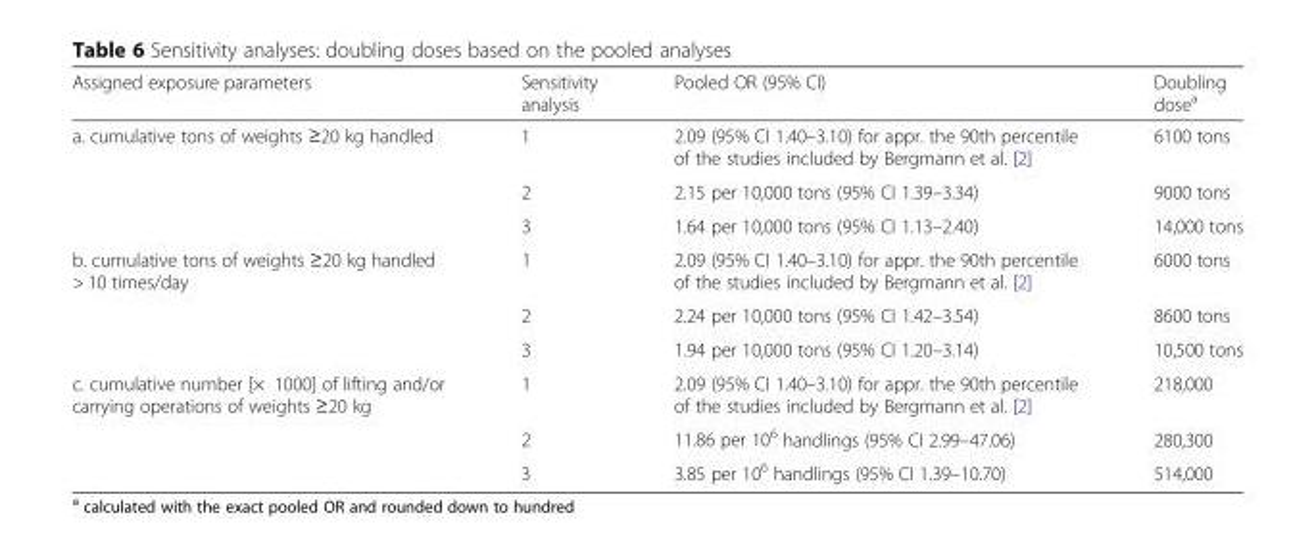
<table><thead><tr><td>Assigned exposure parameters</td><td>Sensitivity analysis</td><td>Pooled OR (95% CI)</td><td>Doubling dose<sup>a</sup></td></tr></thead><tbody><tr><td rowspan="3">a. cumulative tons of weights ≥20 kg handled</td><td>1</td><td>2.09 (95% CI 1.40–3.10) for appr. the 90th percentile of the studies included by Bergmann et al. [2]</td><td>6100 tons</td></tr><tr><td>2</td><td>2.15 per 10,000 tons (95% CI 1.39–3.34)</td><td>9000 tons</td></tr><tr><td>3</td><td>1.64 per 10,000 tons (95% CI 1.13–2.40)</td><td>14,000 tons</td></tr><tr><td rowspan="3">b. cumulative tons of weights ≥20 kg handled &gt; 10 times/day</td><td>1</td><td>2.09 (95% CI 1.40–3.10) for appr. the 90th percentile of the studies included by Bergmann et al. [2]</td><td>6000 tons</td></tr><tr><td>2</td><td>2.24 per 10,000 tons (95% CI 1.42–3.54)</td><td>8600 tons</td></tr><tr><td>3</td><td>1.94 per 10,000 tons (95% CI 1.20–3.14)</td><td>10,500 tons</td></tr><tr><td rowspan="3">c. cumulative number [× 1000] of lifting and/or carrying operations of weights ≥20 kg</td><td>1</td><td>2.09 (95% CI 1.40–3.10) for appr. the 90th percentile of the studies included by Bergmann et al. [2]</td><td>218,000</td></tr><tr><td>2</td><td>11.86 per 10<sup>6</sup> handlings (95% CI 2.99–47.06)</td><td>280,300</td></tr><tr><td>3</td><td>3.85 per 10<sup>6</sup> handlings (95% CI 1.39–10.70)</td><td>514,000</td></tr></tbody></table>